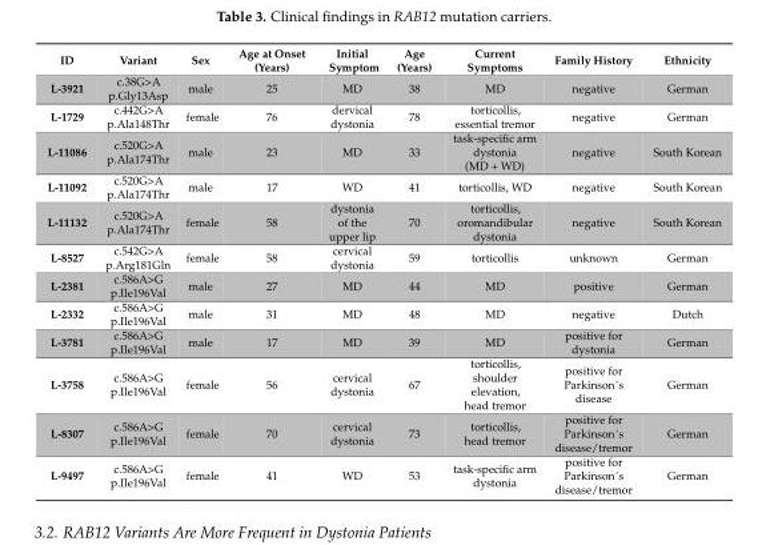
<table><thead><tr><td>ID</td><td>Variant</td><td>Sex</td><td>Age at Onset (Years)</td><td>Initial Symptom</td><td>Age (Years)</td><td>Current Symptoms</td><td>Family History</td><td>Ethnicity</td></tr></thead><tbody><tr><td>L-3921</td><td>c.38G&gt;A p.Gly13Asp</td><td>male</td><td>25</td><td>MD</td><td>38</td><td>MD</td><td>negative</td><td>German</td></tr><tr><td>L-1729</td><td>c.442G&gt;A p.Ala148Thr</td><td>female</td><td>76</td><td>dervical dystonia</td><td>78</td><td>torticollis, essential tremor</td><td>negative</td><td>German</td></tr><tr><td>L-11086</td><td>c.520G&gt;A p.Ala174Thr</td><td>male</td><td>23</td><td>MD</td><td>33</td><td>task-specific arm dystonia (MD + WD)</td><td>negative</td><td>South Korean</td></tr><tr><td>L-11092</td><td>c.520G&gt;A p.Ala174Thr</td><td>male</td><td>17</td><td>WD</td><td>41</td><td>torticollis, WD</td><td>negative</td><td>South Korean</td></tr><tr><td>L-11132</td><td>c.520G&gt;A p.Ala174Thr</td><td>female</td><td>58</td><td>dystonia of the upper lip</td><td>70</td><td>torticollis, oromandibular dystonia</td><td>negative</td><td>South Korean</td></tr><tr><td>L-8527</td><td>c.542G&gt;A p.Arg181Gln</td><td>female</td><td>58</td><td>cervical dystonia</td><td>59</td><td>torticollis</td><td>unknown</td><td>German</td></tr><tr><td>L-2381</td><td>c.586A&gt;G p.Ile196Val</td><td>male</td><td>27</td><td>MD</td><td>44</td><td>MD</td><td>positive</td><td>German</td></tr><tr><td>L-2332</td><td>c.586A&gt;G p.Ile196Val</td><td>male</td><td>31</td><td>MD</td><td>48</td><td>MD</td><td>negative</td><td>Dutch</td></tr><tr><td>L-3781</td><td>c.586A&gt;G p.Ile196Val</td><td>male</td><td>17</td><td>MD</td><td>39</td><td>MD</td><td>positive for dystonia</td><td>German</td></tr><tr><td>L-3758</td><td>c.586A&gt;G p.Ile196Val</td><td>female</td><td>56</td><td>cervical dystonia</td><td>67</td><td>torticollis, shoulder elevation, head tremor</td><td>positive for Parkinson´s disease</td><td>German</td></tr><tr><td>L-8307</td><td>c.586A&gt;G p.Ile196Val</td><td>female</td><td>70</td><td>cervical dystonia</td><td>73</td><td>torticollis, head tremor</td><td>positive for Parkinson´s disease/tremor</td><td>German</td></tr><tr><td>L-9497</td><td>c.586A&gt;G p.Ile196Val</td><td>female</td><td>41</td><td>WD</td><td>53</td><td>task-specific arm dystonia</td><td>positive for Parkinson´s disease/tremor</td><td>German</td></tr></tbody></table>